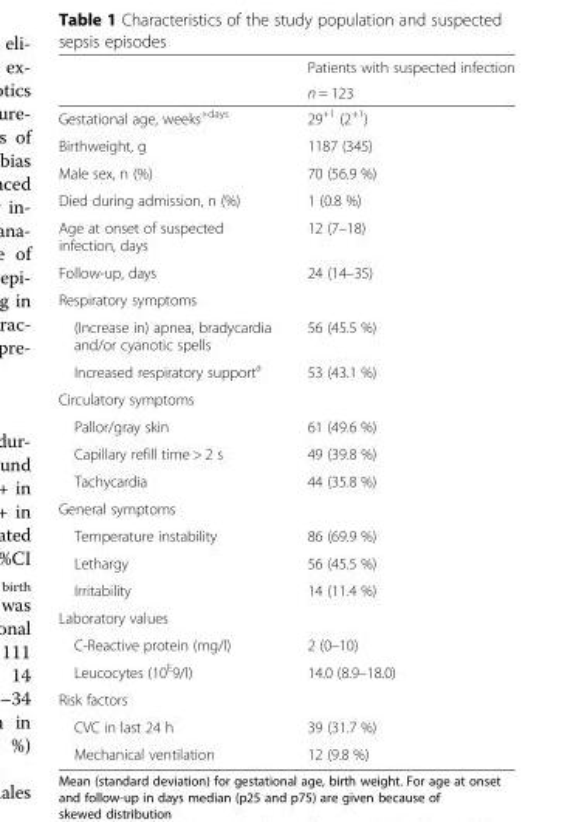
<table><thead><tr><td rowspan="2"></td><td rowspan="2">Patients with suspected infection n = 123</td></tr><tr></tr></thead><tbody><tr><td>Gestational age, weeks<sup>+days</sup></td><td>29<sup>+1</sup> (2<sup>+1</sup>)</td></tr><tr><td>Birthweight, g</td><td>1187 (345)</td></tr><tr><td>Male sex, n (%)</td><td>70 (56.9 %)</td></tr><tr><td>Died during admission, n (%)</td><td>1 (0.8 %)</td></tr><tr><td>Age at onset of suspected infection, days</td><td>12 (7–18)</td></tr><tr><td>Follow-up, days</td><td>24 (14–35)</td></tr><tr><td colspan="2">Respiratory symptoms</td></tr><tr><td>(Increase in) apnea, bradycardia and/or cyanotic spells</td><td>56 (45.5 %)</td></tr><tr><td>Increased respiratory support<sup>a</sup></td><td>53 (43.1 %)</td></tr><tr><td colspan="2">Circulatory symptoms</td></tr><tr><td>Pallor/gray skin</td><td>61 (49.6 %)</td></tr><tr><td>Capillary refill time &gt; 2 s</td><td>49 (39.8 %)</td></tr><tr><td>Tachycardia</td><td>44 (35.8 %)</td></tr><tr><td colspan="2">General symptoms</td></tr><tr><td>Temperature instability</td><td>86 (69.9 %)</td></tr><tr><td>Lethargy</td><td>56 (45.5 %)</td></tr><tr><td>Irritability</td><td>14 (11.4 %)</td></tr><tr><td colspan="2">Laboratory values</td></tr><tr><td>C-Reactive protein (mg/l)</td><td>2 (0–10)</td></tr><tr><td>Leucocytes (10<sup>E</sup>9/l)</td><td>14.0 (8.9–18.0)</td></tr><tr><td colspan="2">Risk factors</td></tr><tr><td>CVC in last 24 h</td><td>39 (31.7 %)</td></tr><tr><td>Mechanical ventilation</td><td>12 (9.8 %)</td></tr></tbody></table>